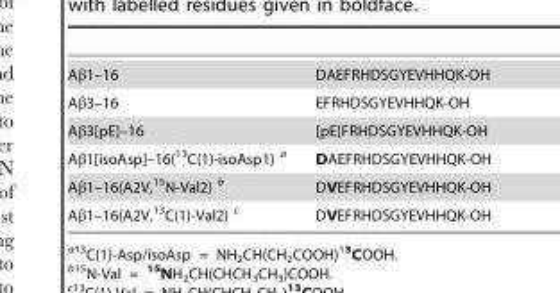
<table><tbody><tr><td>Aβ1–16</td><td>DAEFRHDSGYEVHHQK-OH</td></tr><tr><td>Aβ3–16</td><td>EFRHDSGYEVHHQK-OH</td></tr><tr><td>Aβ3[pE]–16</td><td>[pE]FRHDSGYEVHHQK-OH</td></tr><tr><td>Aβ1[isoAsp]–16(<sup>13</sup>C(1)-isoAsp1) a</td><td>DAEFRHDSGYEVHHQK-OH</td></tr><tr><td>Aβ1–16(A2V,<sup>15</sup>N-Val2) b</td><td>DVEFRHDSGYEVHHQK-OH</td></tr><tr><td>Aβ1–16(A2V,<sup>13</sup>C(1)-Val2) c</td><td>DVEFRHDSGYEVHHQK-OH</td></tr></tbody></table>